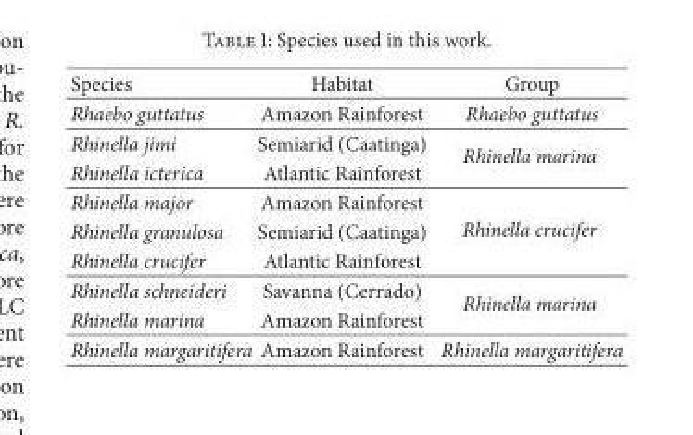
<table><thead><tr><td>Species</td><td>Habitat</td><td>Group</td></tr></thead><tbody><tr><td>Rhaebo guttatus</td><td>Amazon Rainforest</td><td>Rhaebo guttatus</td></tr><tr><td>Rhinella jimi</td><td>Semiarid (Caatinga)</td><td rowspan="2">Rhinella marina</td></tr><tr><td>Rhinella icterica</td><td>Atlantic Rainforest</td></tr><tr><td>Rhinella major</td><td>Amazon Rainforest</td><td rowspan="3">Rhinella crucifer</td></tr><tr><td>Rhinella granulosa</td><td>Semiarid (Caatinga)</td></tr><tr><td>Rhinella crucifer</td><td>Atlantic Rainforest</td></tr><tr><td>Rhinella schneideri</td><td>Savanna (Cerrado)</td><td rowspan="2">Rhinella marina</td></tr><tr><td>Rhinella marina</td><td>Amazon Rainforest</td></tr><tr><td>Rhinella margaritifera</td><td>Amazon Rainforest</td><td>Rhinella margaritifera</td></tr></tbody></table>